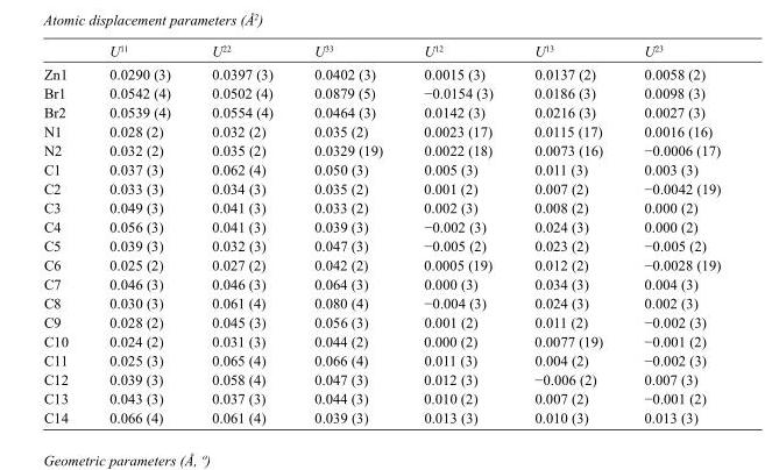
<table><thead><tr><td></td><td>U<sup>11</sup></td><td>U<sup>22</sup></td><td>U<sup>33</sup></td><td>U<sup>12</sup></td><td>U<sup>13</sup></td><td>U<sup>23</sup></td></tr></thead><tbody><tr><td>Zn1</td><td>0.0290 (3)</td><td>0.0397 (3)</td><td>0.0402 (3)</td><td>0.0015 (3)</td><td>0.0137 (2)</td><td>0.0058 (2)</td></tr><tr><td>Br1</td><td>0.0542 (4)</td><td>0.0502 (4)</td><td>0.0879 (5)</td><td>−0.0154 (3)</td><td>0.0186 (3)</td><td>0.0098 (3)</td></tr><tr><td>Br2</td><td>0.0539 (4)</td><td>0.0554 (4)</td><td>0.0464 (3)</td><td>0.0142 (3)</td><td>0.0216 (3)</td><td>0.0027 (3)</td></tr><tr><td>N1</td><td>0.028 (2)</td><td>0.032 (2)</td><td>0.035 (2)</td><td>0.0023 (17)</td><td>0.0115 (17)</td><td>0.0016 (16)</td></tr><tr><td>N2</td><td>0.032 (2)</td><td>0.035 (2)</td><td>0.0329 (19)</td><td>0.0022 (18)</td><td>0.0073 (16)</td><td>−0.0006 (17)</td></tr><tr><td>C1</td><td>0.037 (3)</td><td>0.062 (4)</td><td>0.050 (3)</td><td>0.005 (3)</td><td>0.011 (3)</td><td>0.003 (3)</td></tr><tr><td>C2</td><td>0.033 (3)</td><td>0.034 (3)</td><td>0.035 (2)</td><td>0.001 (2)</td><td>0.007 (2)</td><td>−0.0042 (19)</td></tr><tr><td>C3</td><td>0.049 (3)</td><td>0.041 (3)</td><td>0.033 (2)</td><td>0.002 (3)</td><td>0.008 (2)</td><td>0.000 (2)</td></tr><tr><td>C4</td><td>0.056 (3)</td><td>0.041 (3)</td><td>0.039 (3)</td><td>−0.002 (3)</td><td>0.024 (3)</td><td>0.000 (2)</td></tr><tr><td>C5</td><td>0.039 (3)</td><td>0.032 (3)</td><td>0.047 (3)</td><td>−0.005 (2)</td><td>0.023 (2)</td><td>−0.005 (2)</td></tr><tr><td>C6</td><td>0.025 (2)</td><td>0.027 (2)</td><td>0.042 (2)</td><td>0.0005 (19)</td><td>0.012 (2)</td><td>−0.0028 (19)</td></tr><tr><td>C7</td><td>0.046 (3)</td><td>0.046 (3)</td><td>0.064 (3)</td><td>0.000 (3)</td><td>0.034 (3)</td><td>0.004 (3)</td></tr><tr><td>C8</td><td>0.030 (3)</td><td>0.061 (4)</td><td>0.080 (4)</td><td>−0.004 (3)</td><td>0.024 (3)</td><td>0.002 (3)</td></tr><tr><td>C9</td><td>0.028 (2)</td><td>0.045 (3)</td><td>0.056 (3)</td><td>0.001 (2)</td><td>0.011 (2)</td><td>−0.002 (3)</td></tr><tr><td>C10</td><td>0.024 (2)</td><td>0.031 (3)</td><td>0.044 (2)</td><td>0.000 (2)</td><td>0.0077 (19)</td><td>−0.001 (2)</td></tr><tr><td>C11</td><td>0.025 (3)</td><td>0.065 (4)</td><td>0.066 (4)</td><td>0.011 (3)</td><td>0.004 (2)</td><td>−0.002 (3)</td></tr><tr><td>C12</td><td>0.039 (3)</td><td>0.058 (4)</td><td>0.047 (3)</td><td>0.012 (3)</td><td>−0.006 (2)</td><td>0.007 (3)</td></tr><tr><td>C13</td><td>0.043 (3)</td><td>0.037 (3)</td><td>0.044 (3)</td><td>0.010 (2)</td><td>0.007 (2)</td><td>−0.001 (2)</td></tr><tr><td>C14</td><td>0.066 (4)</td><td>0.061 (4)</td><td>0.039 (3)</td><td>0.013 (3)</td><td>0.010 (3)</td><td>0.013 (3)</td></tr></tbody></table>